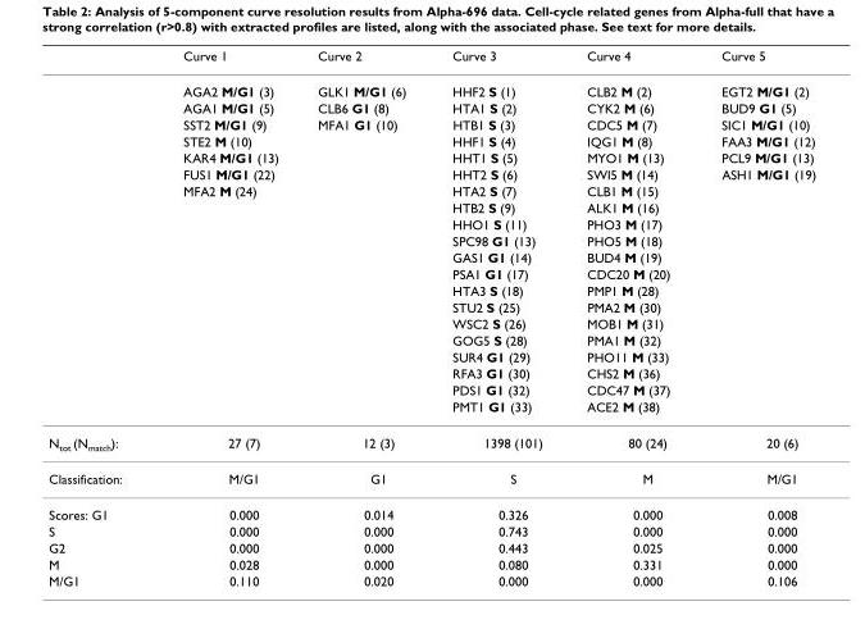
<table><thead><tr><td></td><td>Curve 1</td><td>Curve 2</td><td>Curve 3</td><td>Curve 4</td><td>Curve 5</td></tr></thead><tbody><tr><td></td><td>AGA2 M/G1 (3)</td><td>GLK1 M/G1 (6)</td><td>HHF2 S (1)</td><td>CLB2 M (2)</td><td>EGT2 M/G1 (2)</td></tr><tr><td></td><td>AGA1 M/G1 (5)</td><td>CLB6 G1 (8)</td><td>HTA1 S (2)</td><td>CYK2 M (6)</td><td>BUD9 G1 (5)</td></tr><tr><td></td><td>SST2 M/G1 (9)</td><td>MFA1 G1 (10)</td><td>HTB1 S (3)</td><td>CDC5 M (7)</td><td>SIC1 M/G1 (10)</td></tr><tr><td></td><td>STE2 M (10)</td><td></td><td>HHF1 S (4)</td><td>IQG1 M (8)</td><td>FAA3 M/G1 (12)</td></tr><tr><td></td><td>KAR4 M/G1 (13)</td><td></td><td>HHT1 S (5)</td><td>MYO1 M (13)</td><td>PCL9 M/G1 (13)</td></tr><tr><td></td><td>FUS1 M/G1 (22)</td><td></td><td>HHT2 S (6)</td><td>SWI5 M (14)</td><td>ASH1 M/G1 (19)</td></tr><tr><td></td><td>MFA2 M (24)</td><td></td><td>HTA2 S (7)</td><td>CLB1 M (15)</td><td></td></tr><tr><td></td><td></td><td></td><td>HTB2 S (9)</td><td>ALK1 M (16)</td><td></td></tr><tr><td></td><td></td><td></td><td>HHO1 S (11)</td><td>PHO3 M (17)</td><td></td></tr><tr><td></td><td></td><td></td><td>SPC98 G1 (13)</td><td>PHO5 M (18)</td><td></td></tr><tr><td></td><td></td><td></td><td>GAS1 G1 (14)</td><td>BUD4 M (19)</td><td></td></tr><tr><td></td><td></td><td></td><td>PSA1 G1 (17)</td><td>CDC20 M (20)</td><td></td></tr><tr><td></td><td></td><td></td><td>HTA3 S (18)</td><td>PMP1 M (28)</td><td></td></tr><tr><td></td><td></td><td></td><td>STU2 S (25)</td><td>PMA2 M (30)</td><td></td></tr><tr><td></td><td></td><td></td><td>WSC2 S (26)</td><td>MOB1 M (31)</td><td></td></tr><tr><td></td><td></td><td></td><td>GOG5 S (28)</td><td>PMA1 M (32)</td><td></td></tr><tr><td></td><td></td><td></td><td>SUR4 G1 (29)</td><td>PHO11 M (33)</td><td></td></tr><tr><td></td><td></td><td></td><td>RFA3 G1 (30)</td><td>CHS2 M (36)</td><td></td></tr><tr><td></td><td></td><td></td><td>PDS1 G1 (32)</td><td>CDC47 M (37)</td><td></td></tr><tr><td></td><td></td><td></td><td>PMT1 G1 (33)</td><td>ACE2 M (38)</td><td></td></tr><tr><td>Ntot (Nmatch):</td><td>27 (7)</td><td>12 (3)</td><td>1398 (101)</td><td>80 (24)</td><td>20 (6)</td></tr><tr><td>Classification:</td><td>M/G1</td><td>G1</td><td>S</td><td>M</td><td>M/G1</td></tr><tr><td>Scores: G1</td><td>0.000</td><td>0.014</td><td>0.326</td><td>0.000</td><td>0.008</td></tr><tr><td>S</td><td>0.000</td><td>0.000</td><td>0.743</td><td>0.000</td><td>0.000</td></tr><tr><td>G2</td><td>0.000</td><td>0.000</td><td>0.443</td><td>0.025</td><td>0.000</td></tr><tr><td>M</td><td>0.028</td><td>0.000</td><td>0.080</td><td>0.331</td><td>0.000</td></tr><tr><td>M/G1</td><td>0.110</td><td>0.020</td><td>0.000</td><td>0.000</td><td>0.106</td></tr></tbody></table>